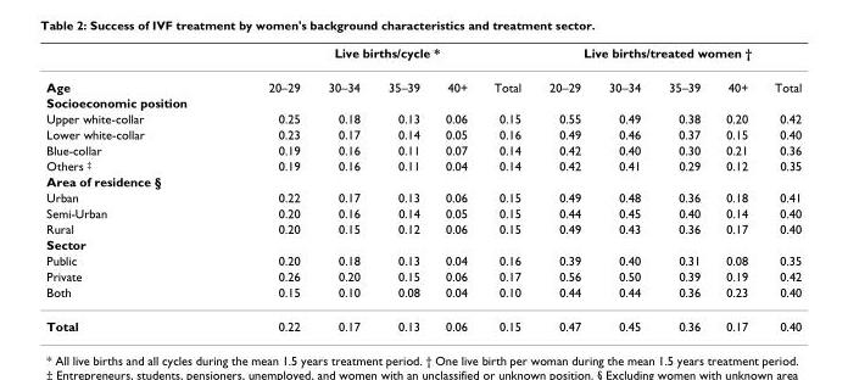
<table><thead><tr><td rowspan="2">Age</td><td colspan="5">Live births/cycle *</td><td colspan="5">Live births/treated women †</td></tr><tr><td>20–29</td><td>30–34</td><td>35–39</td><td>40+</td><td>Total</td><td>20–29</td><td>30–34</td><td>35–39</td><td>40+</td><td>Total</td></tr></thead><tbody><tr><td colspan="11">Socioeconomic position</td></tr><tr><td>Upper white-collar</td><td>0.25</td><td>0.18</td><td>0.13</td><td>0.06</td><td>0.15</td><td>0.55</td><td>0.49</td><td>0.38</td><td>0.20</td><td>0.42</td></tr><tr><td>Lower white-collar</td><td>0.23</td><td>0.17</td><td>0.14</td><td>0.05</td><td>0.16</td><td>0.49</td><td>0.46</td><td>0.37</td><td>0.15</td><td>0.40</td></tr><tr><td>Blue-collar</td><td>0.19</td><td>0.16</td><td>0.11</td><td>0.07</td><td>0.14</td><td>0.42</td><td>0.40</td><td>0.30</td><td>0.21</td><td>0.36</td></tr><tr><td>Others <sup>‡</sup></td><td>0.19</td><td>0.16</td><td>0.11</td><td>0.04</td><td>0.14</td><td>0.42</td><td>0.41</td><td>0.29</td><td>0.12</td><td>0.35</td></tr><tr><td colspan="11">Area of residence §</td></tr><tr><td>Urban</td><td>0.22</td><td>0.17</td><td>0.13</td><td>0.06</td><td>0.15</td><td>0.49</td><td>0.48</td><td>0.36</td><td>0.18</td><td>0.41</td></tr><tr><td>Semi-Urban</td><td>0.20</td><td>0.16</td><td>0.14</td><td>0.05</td><td>0.15</td><td>0.44</td><td>0.45</td><td>0.40</td><td>0.14</td><td>0.40</td></tr><tr><td>Rural</td><td>0.20</td><td>0.15</td><td>0.12</td><td>0.06</td><td>0.15</td><td>0.49</td><td>0.43</td><td>0.36</td><td>0.17</td><td>0.40</td></tr><tr><td colspan="11">Sector</td></tr><tr><td>Public</td><td>0.20</td><td>0.18</td><td>0.13</td><td>0.04</td><td>0.16</td><td>0.39</td><td>0.40</td><td>0.31</td><td>0.08</td><td>0.35</td></tr><tr><td>Private</td><td>0.26</td><td>0.20</td><td>0.15</td><td>0.06</td><td>0.17</td><td>0.56</td><td>0.50</td><td>0.39</td><td>0.19</td><td>0.42</td></tr><tr><td>Both</td><td>0.15</td><td>0.10</td><td>0.08</td><td>0.04</td><td>0.10</td><td>0.44</td><td>0.44</td><td>0.36</td><td>0.23</td><td>0.40</td></tr><tr><td>Total</td><td>0.22</td><td>0.17</td><td>0.13</td><td>0.06</td><td>0.15</td><td>0.47</td><td>0.45</td><td>0.36</td><td>0.17</td><td>0.40</td></tr></tbody></table>